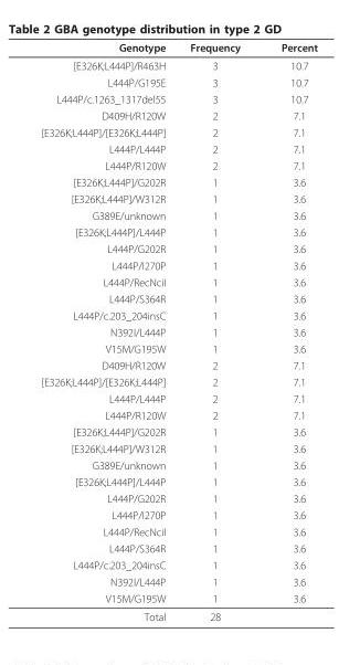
<table><thead><tr><td>Genotype</td><td>Frequency</td><td>Percent</td></tr></thead><tbody><tr><td>[E326K;L444P]/R463H</td><td>3</td><td>10.7</td></tr><tr><td>L444P/G195E</td><td>3</td><td>10.7</td></tr><tr><td>L444P/c.1263_1317del55</td><td>3</td><td>10.7</td></tr><tr><td>D409H/R120W</td><td>2</td><td>7.1</td></tr><tr><td>[E326K;L444P]/[E326K;L444P]</td><td>2</td><td>7.1</td></tr><tr><td>L444P/L444P</td><td>2</td><td>7.1</td></tr><tr><td>L444P/R120W</td><td>2</td><td>7.1</td></tr><tr><td>[E326K;L444P]/G202R</td><td>1</td><td>3.6</td></tr><tr><td>[E326K;L444P]/W312R</td><td>1</td><td>3.6</td></tr><tr><td>G389E/unknown</td><td>1</td><td>3.6</td></tr><tr><td>[E326K;L444P]/L444P</td><td>1</td><td>3.6</td></tr><tr><td>L444P/G202R</td><td>1</td><td>3.6</td></tr><tr><td>L444P/I270P</td><td>1</td><td>3.6</td></tr><tr><td>L444P/RecNciI</td><td>1</td><td>3.6</td></tr><tr><td>L444P/S364R</td><td>1</td><td>3.6</td></tr><tr><td>L444P/c.203_204insC</td><td>1</td><td>3.6</td></tr><tr><td>N392I/L444P</td><td>1</td><td>3.6</td></tr><tr><td>V15M/G195W</td><td>1</td><td>3.6</td></tr><tr><td>D409H/R120W</td><td>2</td><td>7.1</td></tr><tr><td>[E326K;L444P]/[E326K;L444P]</td><td>2</td><td>7.1</td></tr><tr><td>L444P/L444P</td><td>2</td><td>7.1</td></tr><tr><td>L444P/R120W</td><td>2</td><td>7.1</td></tr><tr><td>[E326K;L444P]/G202R</td><td>1</td><td>3.6</td></tr><tr><td>[E326K;L444P]/W312R</td><td>1</td><td>3.6</td></tr><tr><td>G389E/unknown</td><td>1</td><td>3.6</td></tr><tr><td>[E326K;L444P]/L444P</td><td>1</td><td>3.6</td></tr><tr><td>L444P/G202R</td><td>1</td><td>3.6</td></tr><tr><td>L444P/I270P</td><td>1</td><td>3.6</td></tr><tr><td>L444P/RecNciI</td><td>1</td><td>3.6</td></tr><tr><td>L444P/S364R</td><td>1</td><td>3.6</td></tr><tr><td>L444P/c.203_204insC</td><td>1</td><td>3.6</td></tr><tr><td>N392I/L444P</td><td>1</td><td>3.6</td></tr><tr><td>V15M/G195W</td><td>1</td><td>3.6</td></tr><tr><td>Total</td><td>28</td><td></td></tr></tbody></table>